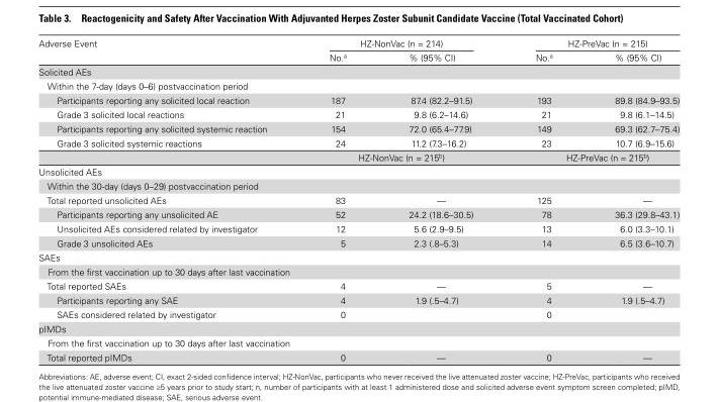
<table><thead><tr><td rowspan="2">Adverse Event</td><td colspan="2">HZ-NonVac (n = 214)</td><td colspan="2">HZ-PreVac (n = 215)</td></tr><tr><td>No.<sup>a</sup></td><td>% (95% CI)</td><td>No.<sup>a</sup></td><td>% (95% CI)</td></tr></thead><tbody><tr><td colspan="5">Solicited AEs</td></tr><tr><td colspan="5">Within the 7-day (days 0–6) postvaccination period</td></tr><tr><td>Participants reporting any solicited local reaction</td><td>187</td><td>87.4 (82.2–91.5)</td><td>193</td><td>89.8 (84.9–93.5)</td></tr><tr><td>Grade 3 solicited local reactions</td><td>21</td><td>9.8 (6.2–14.6)</td><td>21</td><td>9.8 (6.1–14.5)</td></tr><tr><td>Participants reporting any solicited systemic reaction</td><td>154</td><td>72.0 (65.4–77.9)</td><td>149</td><td>69.3 (62.7–75.4)</td></tr><tr><td rowspan="2">Grade 3 solicited systemic reactions</td><td>24</td><td>11.2 (7.3–16.2)</td><td>23</td><td>10.7 (6.9–15.6)</td></tr><tr><td colspan="2">HZ-NonVac (n = 215<sup>b</sup>)</td><td colspan="2">HZ-PreVac (n = 215<sup>b</sup>)</td></tr><tr><td colspan="5">Unsolicited AEs</td></tr><tr><td colspan="5">Within the 30-day (days 0–29) postvaccination period</td></tr><tr><td>Total reported unsolicited AEs</td><td>83</td><td>—</td><td>125</td><td>—</td></tr><tr><td>Participants reporting any unsolicited AE</td><td>52</td><td>24.2 (18.6–30.5)</td><td>78</td><td>36.3 (29.8–43.1)</td></tr><tr><td>Unsolicited AEs considered related by investigator</td><td>12</td><td>5.6 (2.9–9.5)</td><td>13</td><td>6.0 (3.3–10.1)</td></tr><tr><td>Grade 3 unsolicited AEs</td><td>5</td><td>2.3 (.8–5.3)</td><td>14</td><td>6.5 (3.6–10.7)</td></tr><tr><td colspan="5">SAEs</td></tr><tr><td colspan="5">From the first vaccination up to 30 days after last vaccination</td></tr><tr><td>Total reported SAEs</td><td>4</td><td>—</td><td>5</td><td>—</td></tr><tr><td>Participants reporting any SAE</td><td>4</td><td>1.9 (.5–4.7)</td><td>4</td><td>1.9 (.5–4.7)</td></tr><tr><td>SAEs considered related by investigator</td><td>0</td><td></td><td>0</td><td></td></tr><tr><td colspan="5">pIMDs</td></tr><tr><td colspan="5">From the first vaccination up to 30 days after last vaccination</td></tr><tr><td>Total reported pIMDs</td><td>0</td><td>—</td><td>0</td><td>—</td></tr></tbody></table>